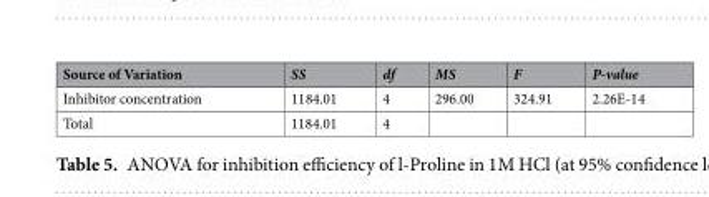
<table><thead><tr><td>Source of Variation</td><td>SS</td><td>df</td><td>MS</td><td>F</td><td>P-value</td></tr></thead><tbody><tr><td>Inhibitor concentration</td><td>1184.01</td><td>4</td><td>296.00</td><td>324.91</td><td>2.26E-14</td></tr><tr><td>Total</td><td>1184.01</td><td>4</td><td></td><td></td><td></td></tr></tbody></table>